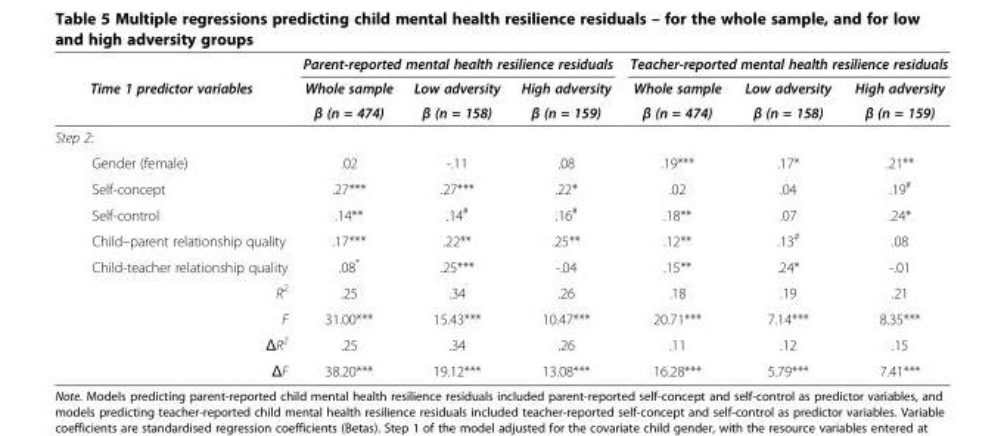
<table><thead><tr><td rowspan="3">Time 1 predictor variables</td><td colspan="3">Parent-reported mental health resilience residuals</td><td colspan="3">Teacher-reported mental health resilience residuals</td></tr><tr><td rowspan="2">Whole sample β (n = 474)</td><td rowspan="2">Low adversity β (n = 158)</td><td rowspan="2">High adversity β (n = 159)</td><td rowspan="2">Whole sample β (n = 474)</td><td rowspan="2">Low adversity β (n = 158)</td><td rowspan="2">High adversity β (n = 159)</td></tr><tr></tr></thead><tbody><tr><td colspan="7">Step 2:</td></tr><tr><td>Gender (female)</td><td>.02</td><td>-.11</td><td>.08</td><td>.19***</td><td>.17*</td><td>.21**</td></tr><tr><td>Self-concept</td><td>.27***</td><td>.27***</td><td>.22*</td><td>.02</td><td>.04</td><td>.19<sup>#</sup></td></tr><tr><td>Self-control</td><td>.14**</td><td>.14<sup>#</sup></td><td>.16<sup>#</sup></td><td>.18**</td><td>.07</td><td>.24*</td></tr><tr><td>Child–parent relationship quality</td><td>.17***</td><td>.22**</td><td>.25**</td><td>.12**</td><td>.13<sup>#</sup></td><td>.08</td></tr><tr><td>Child-teacher relationship quality</td><td>.08*</td><td>.25***</td><td>-.04</td><td>.15**</td><td>.24*</td><td>-.01</td></tr><tr><td>R<sup>2</sup></td><td>.25</td><td>.34</td><td>.26</td><td>.18</td><td>.19</td><td>.21</td></tr><tr><td>F</td><td>31.00***</td><td>15.43***</td><td>10.47***</td><td>20.71***</td><td>7.14***</td><td>8.35***</td></tr><tr><td>ΔR<sup>2</sup></td><td>.25</td><td>.34</td><td>.26</td><td>.11</td><td>.12</td><td>.15</td></tr><tr><td>ΔF</td><td>38.20***</td><td>19.12***</td><td>13.08***</td><td>16.28***</td><td>5.79***</td><td>7.41***</td></tr></tbody></table>